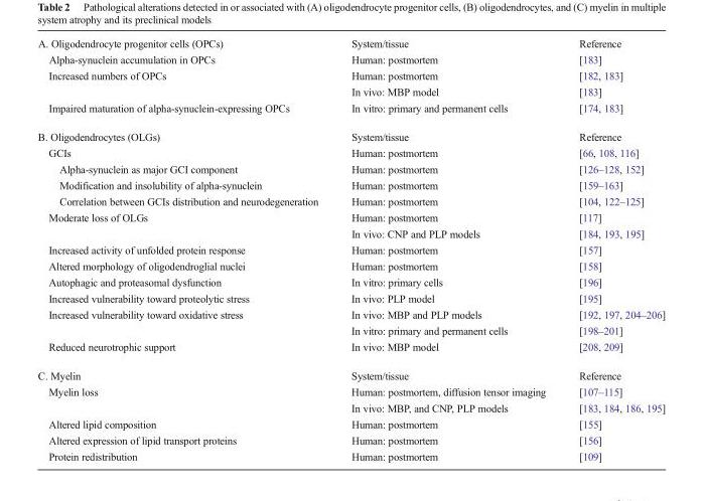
<table><tbody><tr><td>A. Oligodendrocyte progenitor cells (OPCs)</td><td>System/tissue</td><td>Reference</td></tr><tr><td>Alpha-synuclein accumulation in OPCs</td><td>Human: postmortem</td><td>[183]</td></tr><tr><td rowspan="2">Increased numbers of OPCs</td><td>Human: postmortem</td><td>[182, 183]</td></tr><tr><td>In vivo: MBP model</td><td>[183]</td></tr><tr><td>Impaired maturation of alpha-synuclein-expressing OPCs</td><td>In vitro: primary and permanent cells</td><td>[174, 183]</td></tr><tr><td>B. Oligodendrocytes (OLGs)</td><td>System/tissue</td><td>Reference</td></tr><tr><td>GCIs</td><td>Human: postmortem</td><td>[66, 108, 116]</td></tr><tr><td>Alpha-synuclein as major GCI component</td><td>Human: postmortem</td><td>[126–128, 152]</td></tr><tr><td>Modification and insolubility of alpha-synuclein</td><td>Human: postmortem</td><td>[159–163]</td></tr><tr><td>Correlation between GCIs distribution and neurodegeneration</td><td>Human: postmortem</td><td>[104, 122–125]</td></tr><tr><td rowspan="2">Moderate loss of OLGs</td><td>Human: postmortem</td><td>[117]</td></tr><tr><td>In vivo: CNP and PLP models</td><td>[184, 193, 195]</td></tr><tr><td>Increased activity of unfolded protein response</td><td>Human: postmortem</td><td>[157]</td></tr><tr><td>Altered morphology of oligodendroglial nuclei</td><td>Human: postmortem</td><td>[158]</td></tr><tr><td>Autophagic and proteasomal dysfunction</td><td>In vitro: primary cells</td><td>[196]</td></tr><tr><td>Increased vulnerability toward proteolytic stress</td><td>In vivo: PLP model</td><td>[195]</td></tr><tr><td rowspan="2">Increased vulnerability toward oxidative stress</td><td>In vivo: MBP and PLP models</td><td>[192, 197, 204–206]</td></tr><tr><td>In vitro: primary and permanent cells</td><td>[198–201]</td></tr><tr><td>Reduced neurotrophic support</td><td>In vivo: MBP model</td><td>[208, 209]</td></tr><tr><td>C. Myelin</td><td>System/tissue</td><td>Reference</td></tr><tr><td rowspan="2">Myelin loss</td><td>Human: postmortem, diffusion tensor imaging</td><td>[107–115]</td></tr><tr><td>In vivo: MBP, and CNP, PLP models</td><td>[183, 184, 186, 195]</td></tr><tr><td>Altered lipid composition</td><td>Human: postmortem</td><td>[155]</td></tr><tr><td>Altered expression of lipid transport proteins</td><td>Human: postmortem</td><td>[156]</td></tr><tr><td>Protein redistribution</td><td>Human: postmortem</td><td>[109]</td></tr></tbody></table>